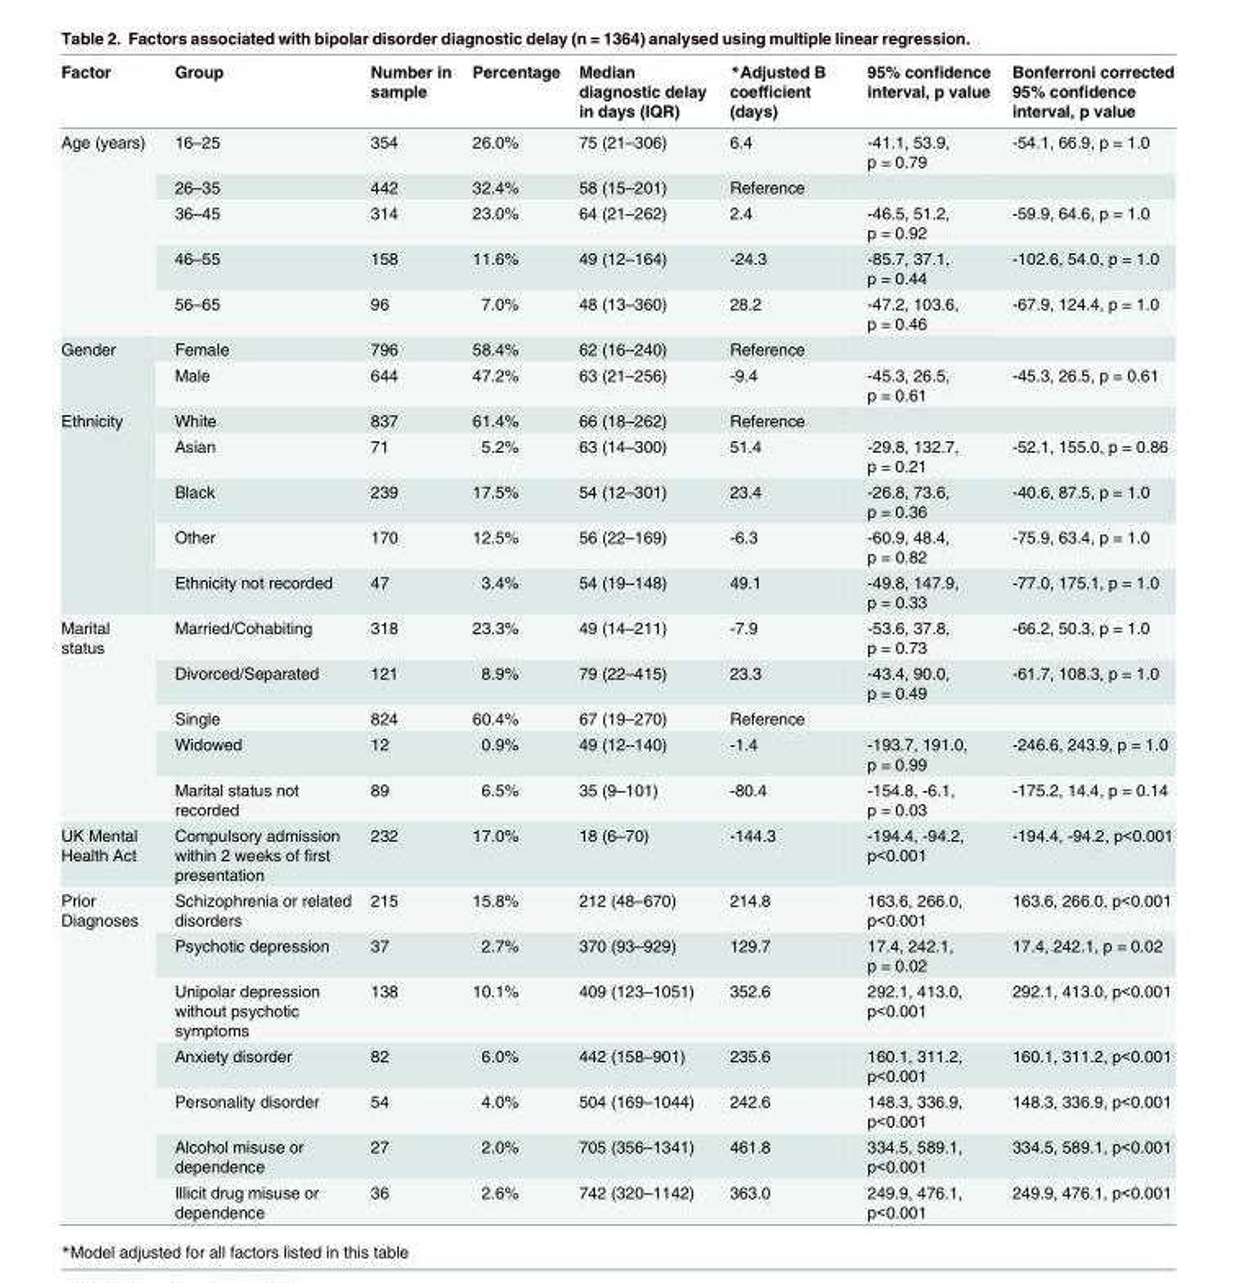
<table><thead><tr><td>Factor</td><td>Group</td><td>Number in sample</td><td>Percentage</td><td>Median diagnostic delay in days (IQR)</td><td>*Adjusted B coefficient (days)</td><td>95% confidence interval, p value</td><td>Bonferroni corrected 95% confidence interval, p value</td></tr></thead><tbody><tr><td rowspan="5">Age (years)</td><td>16–25</td><td>354</td><td>26.0%</td><td>75 (21–306)</td><td>6.4</td><td>-41.1, 53.9, p = 0.79</td><td>-54.1, 66.9, p = 1.0</td></tr><tr><td>26–35</td><td>442</td><td>32.4%</td><td>58 (15–201)</td><td>Reference</td><td></td><td></td></tr><tr><td>36–45</td><td>314</td><td>23.0%</td><td>64 (21–262)</td><td>2.4</td><td>-46.5, 51.2, p = 0.92</td><td>-59.9, 64.6, p = 1.0</td></tr><tr><td>46–55</td><td>158</td><td>11.6%</td><td>49 (12–164)</td><td>-24.3</td><td>-85.7, 37.1, p = 0.44</td><td>-102.6, 54.0, p = 1.0</td></tr><tr><td>56–65</td><td>96</td><td>7.0%</td><td>48 (13–360)</td><td>28.2</td><td>-47.2, 103.6, p = 0.46</td><td>-67.9, 124.4, p = 1.0</td></tr><tr><td rowspan="2">Gender</td><td>Female</td><td>796</td><td>58.4%</td><td>62 (16–240)</td><td>Reference</td><td></td><td></td></tr><tr><td>Male</td><td>644</td><td>47.2%</td><td>63 (21–256)</td><td>-9.4</td><td>-45.3, 26.5, p = 0.61</td><td>-45.3, 26.5, p = 0.61</td></tr><tr><td rowspan="5">Ethnicity</td><td>White</td><td>837</td><td>61.4%</td><td>66 (18–262)</td><td>Reference</td><td></td><td></td></tr><tr><td>Asian</td><td>71</td><td>5.2%</td><td>63 (14–300)</td><td>51.4</td><td>-29.8, 132.7, p = 0.21</td><td>-52.1, 155.0, p = 0.86</td></tr><tr><td>Black</td><td>239</td><td>17.5%</td><td>54 (12–301)</td><td>23.4</td><td>-26.8, 73.6, p = 0.36</td><td>-40.6, 87.5, p = 1.0</td></tr><tr><td>Other</td><td>170</td><td>12.5%</td><td>56 (22–169)</td><td>-6.3</td><td>-60.9, 48.4, p = 0.82</td><td>-75.9, 63.4, p = 1.0</td></tr><tr><td>Ethnicity not recorded</td><td>47</td><td>3.4%</td><td>54 (19–148)</td><td>49.1</td><td>-49.8, 147.9, p = 0.33</td><td>-77.0, 175.1, p = 1.0</td></tr><tr><td rowspan="5">Marital status</td><td>Married/Cohabiting</td><td>318</td><td>23.3%</td><td>49 (14–211)</td><td>-7.9</td><td>-53.6, 37.8, p = 0.73</td><td>-66.2, 50.3, p = 1.0</td></tr><tr><td>Divorced/Separated</td><td>121</td><td>8.9%</td><td>79 (22–415)</td><td>23.3</td><td>-43.4, 90.0, p = 0.49</td><td>-61.7, 108.3, p = 1.0</td></tr><tr><td>Single</td><td>824</td><td>60.4%</td><td>67 (19–270)</td><td>Reference</td><td></td><td></td></tr><tr><td>Widowed</td><td>12</td><td>0.9%</td><td>49 (12–140)</td><td>-1.4</td><td>-193.7, 191.0, p = 0.99</td><td>-246.6, 243.9, p = 1.0</td></tr><tr><td>Marital status not recorded</td><td>89</td><td>6.5%</td><td>35 (9–101)</td><td>-80.4</td><td>-154.8, -6.1, p = 0.03</td><td>-175.2, 14.4, p = 0.14</td></tr><tr><td>UK Mental Health Act</td><td>Compulsory admission within 2 weeks of first presentation</td><td>232</td><td>17.0%</td><td>18 (6–70)</td><td>-144.3</td><td>-194.4, -94.2, p&lt;0.001</td><td>-194.4, -94.2, p&lt;0.001</td></tr><tr><td rowspan="7">Prior Diagnoses</td><td>Schizophrenia or related disorders</td><td>215</td><td>15.8%</td><td>212 (48–670)</td><td>214.8</td><td>163.6, 266.0, p&lt;0.001</td><td>163.6, 266.0, p&lt;0.001</td></tr><tr><td>Psychotic depression</td><td>37</td><td>2.7%</td><td>370 (93–929)</td><td>129.7</td><td>17.4, 242.1, p = 0.02</td><td>17.4, 242.1, p = 0.02</td></tr><tr><td>Unipolar depression without psychotic symptoms</td><td>138</td><td>10.1%</td><td>409 (123–1051)</td><td>352.6</td><td>292.1, 413.0, p&lt;0.001</td><td>292.1, 413.0, p&lt;0.001</td></tr><tr><td>Anxiety disorder</td><td>82</td><td>6.0%</td><td>442 (158–901)</td><td>235.6</td><td>160.1, 311.2, p&lt;0.001</td><td>160.1, 311.2, p&lt;0.001</td></tr><tr><td>Personality disorder</td><td>54</td><td>4.0%</td><td>504 (169–1044)</td><td>242.6</td><td>148.3, 336.9, p&lt;0.001</td><td>148.3, 336.9, p&lt;0.001</td></tr><tr><td>Alcohol misuse or dependence</td><td>27</td><td>2.0%</td><td>705 (356–1341)</td><td>461.8</td><td>334.5, 589.1, p&lt;0.001</td><td>334.5, 589.1, p&lt;0.001</td></tr><tr><td>Illicit drug misuse or dependence</td><td>36</td><td>2.6%</td><td>742 (320–1142)</td><td>363.0</td><td>249.9, 476.1, p&lt;0.001</td><td>249.9, 476.1, p&lt;0.001</td></tr></tbody></table>